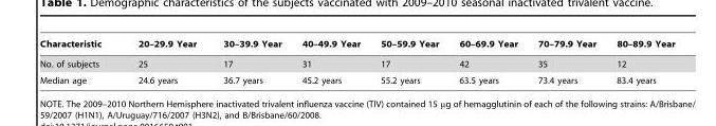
<table><thead><tr><td>Characteristic</td><td>20–29.9 Year</td><td>30–39.9 Year</td><td>40–49.9 Year</td><td>50–59.9 Year</td><td>60–69.9 Year</td><td>70–79.9 Year</td><td>80–89.9 Year</td></tr></thead><tbody><tr><td>No. of subjects</td><td>25</td><td>17</td><td>31</td><td>17</td><td>42</td><td>35</td><td>12</td></tr><tr><td>Median age</td><td>24.6 years</td><td>36.7 years</td><td>45.2 years</td><td>55.2 years</td><td>63.5 years</td><td>73.4 years</td><td>83.4 years</td></tr></tbody></table>